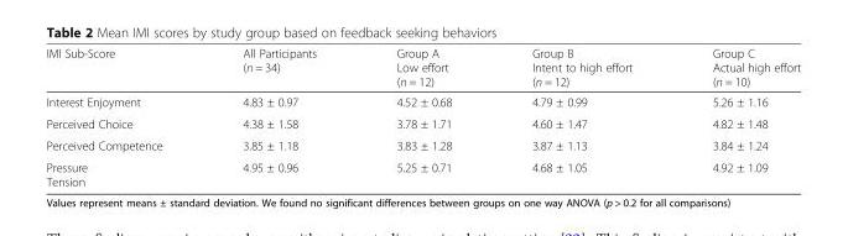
<table><thead><tr><td>IMI Sub-Score</td><td>All Participants (n = 34)</td><td>Group A Low effort (n = 12)</td><td>Group B Intent to high effort (n = 12)</td><td>Group C Actual high effort (n = 10)</td></tr></thead><tbody><tr><td>Interest Enjoyment</td><td>4.83 ± 0.97</td><td>4.52 ± 0.68</td><td>4.79 ± 0.99</td><td>5.26 ± 1.16</td></tr><tr><td>Perceived Choice</td><td>4.38 ± 1.58</td><td>3.78 ± 1.71</td><td>4.60 ± 1.47</td><td>4.82 ± 1.48</td></tr><tr><td>Perceived Competence</td><td>3.85 ± 1.18</td><td>3.83 ± 1.28</td><td>3.87 ± 1.13</td><td>3.84 ± 1.24</td></tr><tr><td>Pressure Tension</td><td>4.95 ± 0.96</td><td>5.25 ± 0.71</td><td>4.68 ± 1.05</td><td>4.92 ± 1.09</td></tr></tbody></table>